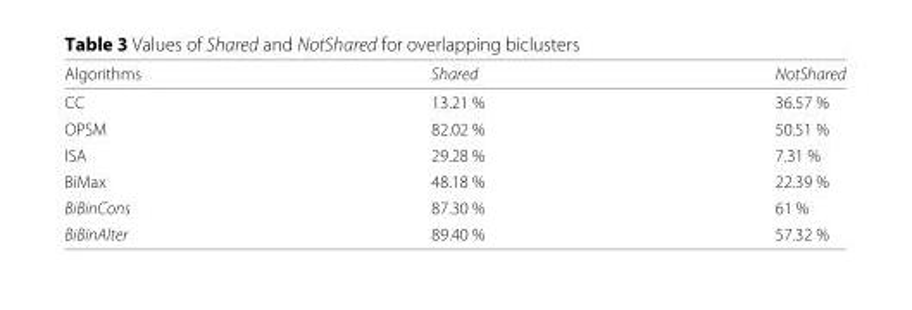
<table><thead><tr><td>Algorithms</td><td>Shared</td><td>NotShared</td></tr></thead><tbody><tr><td>CC</td><td>13.21 %</td><td>36.57 %</td></tr><tr><td>OPSM</td><td>82.02 %</td><td>50.51 %</td></tr><tr><td>ISA</td><td>29.28 %</td><td>7.31 %</td></tr><tr><td>BiMax</td><td>48.18 %</td><td>22.39 %</td></tr><tr><td>BiBinCons</td><td>87.30 %</td><td>61 %</td></tr><tr><td>BiBinAlter</td><td>89.40 %</td><td>57.32 %</td></tr></tbody></table>